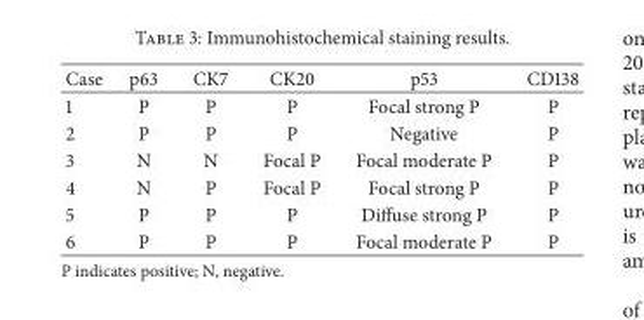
<table><thead><tr><td>Case</td><td>p63</td><td>CK7</td><td>CK20</td><td>p53</td><td>CD138</td></tr></thead><tbody><tr><td>1</td><td>P</td><td>P</td><td>P</td><td>Focal strong P</td><td>P</td></tr><tr><td>2</td><td>P</td><td>P</td><td>P</td><td>Negative</td><td>P</td></tr><tr><td>3</td><td>N</td><td>N</td><td>Focal P</td><td>Focal moderate P</td><td>P</td></tr><tr><td>4</td><td>N</td><td>P</td><td>Focal P</td><td>Focal strong P</td><td>P</td></tr><tr><td>5</td><td>P</td><td>P</td><td>P</td><td>Diffuse strong P</td><td>P</td></tr><tr><td>6</td><td>P</td><td>P</td><td>P</td><td>Focal moderate P</td><td>P</td></tr></tbody></table>